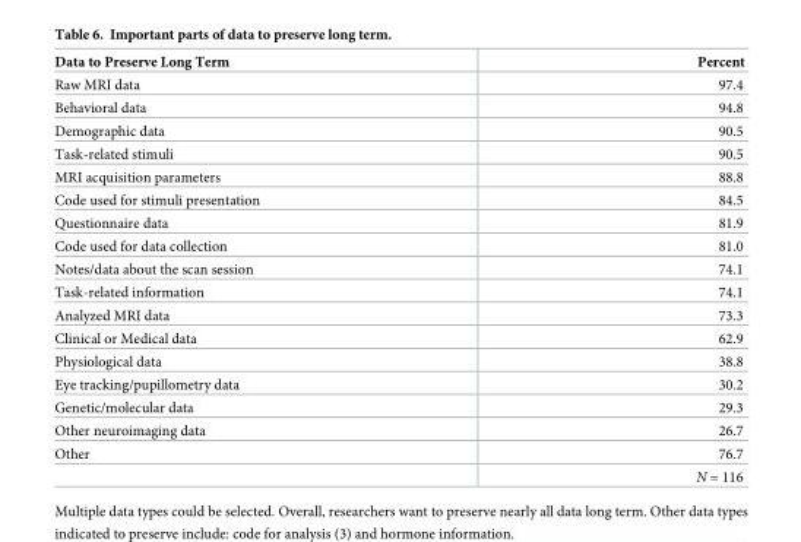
<table><thead><tr><td>Data to Preserve Long Term</td><td>Percent</td></tr></thead><tbody><tr><td>Raw MRI data</td><td>97.4</td></tr><tr><td>Behavioral data</td><td>94.8</td></tr><tr><td>Demographic data</td><td>90.5</td></tr><tr><td>Task-related stimuli</td><td>90.5</td></tr><tr><td>MRI acquisition parameters</td><td>88.8</td></tr><tr><td>Code used for stimuli presentation</td><td>84.5</td></tr><tr><td>Questionnaire data</td><td>81.9</td></tr><tr><td>Code used for data collection</td><td>81.0</td></tr><tr><td>Notes/data about the scan session</td><td>74.1</td></tr><tr><td>Task-related information</td><td>74.1</td></tr><tr><td>Analyzed MRI data</td><td>73.3</td></tr><tr><td>Clinical or Medical data</td><td>62.9</td></tr><tr><td>Physiological data</td><td>38.8</td></tr><tr><td>Eye tracking/pupillometry data</td><td>30.2</td></tr><tr><td>Genetic/molecular data</td><td>29.3</td></tr><tr><td>Other neuroimaging data</td><td>26.7</td></tr><tr><td rowspan="2">Other</td><td>76.7</td></tr><tr><td>N = 116</td></tr></tbody></table>